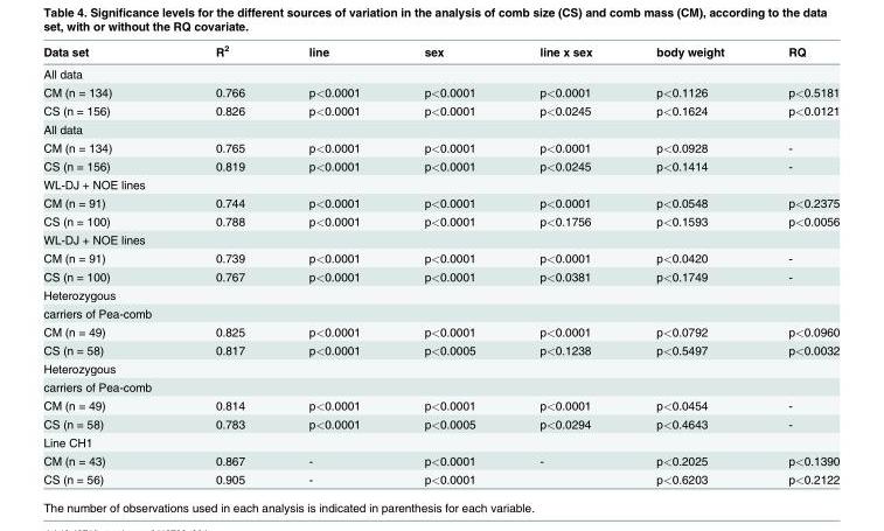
<table><thead><tr><td>Data set</td><td>R<sup>2</sup></td><td>line</td><td>sex</td><td>line x sex</td><td>body weight</td><td>RQ</td></tr></thead><tbody><tr><td colspan="7">All data</td></tr><tr><td>CM (n = 134)</td><td>0.766</td><td>p&lt;0.0001</td><td>p&lt;0.0001</td><td>p&lt;0.0001</td><td>p&lt;0.1126</td><td>p&lt;0.5181</td></tr><tr><td>CS (n = 156)</td><td>0.826</td><td>p&lt;0.0001</td><td>p&lt;0.0001</td><td>p&lt;0.0245</td><td>p&lt;0.1624</td><td>p&lt;0.0121</td></tr><tr><td colspan="7">All data</td></tr><tr><td>CM (n = 134)</td><td>0.765</td><td>p&lt;0.0001</td><td>p&lt;0.0001</td><td>p&lt;0.0001</td><td>p&lt;0.0928</td><td>-</td></tr><tr><td>CS (n = 156)</td><td>0.819</td><td>p&lt;0.0001</td><td>p&lt;0.0001</td><td>p&lt;0.0245</td><td>p&lt;0.1414</td><td>-</td></tr><tr><td colspan="7">WL-DJ + NOE lines</td></tr><tr><td>CM (n = 91)</td><td>0.744</td><td>p&lt;0.0001</td><td>p&lt;0.0001</td><td>p&lt;0.0001</td><td>p&lt;0.0548</td><td>p&lt;0.2375</td></tr><tr><td>CS (n = 100)</td><td>0.788</td><td>p&lt;0.0001</td><td>p&lt;0.0001</td><td>p&lt;0.1756</td><td>p&lt;0.1593</td><td>p&lt;0.0056</td></tr><tr><td colspan="7">WL-DJ + NOE lines</td></tr><tr><td>CM (n = 91)</td><td>0.739</td><td>p&lt;0.0001</td><td>p&lt;0.0001</td><td>p&lt;0.0001</td><td>p&lt;0.0420</td><td>-</td></tr><tr><td>CS (n = 100)</td><td>0.767</td><td>p&lt;0.0001</td><td>p&lt;0.0001</td><td>p&lt;0.0381</td><td>p&lt;0.1749</td><td>-</td></tr><tr><td colspan="7">Heterozygous</td></tr><tr><td colspan="7">carriers of Pea-comb</td></tr><tr><td>CM (n = 49)</td><td>0.825</td><td>p&lt;0.0001</td><td>p&lt;0.0001</td><td>p&lt;0.0001</td><td>p&lt;0.0792</td><td>p&lt;0.0960</td></tr><tr><td>CS (n = 58)</td><td>0.817</td><td>p&lt;0.0001</td><td>p&lt;0.0005</td><td>p&lt;0.1238</td><td>p&lt;0.5497</td><td>p&lt;0.0032</td></tr><tr><td colspan="7">Heterozygous</td></tr><tr><td colspan="7">carriers of Pea-comb</td></tr><tr><td>CM (n = 49)</td><td>0.814</td><td>p&lt;0.0001</td><td>p&lt;0.0001</td><td>p&lt;0.0001</td><td>p&lt;0.0454</td><td>-</td></tr><tr><td>CS (n = 58)</td><td>0.783</td><td>p&lt;0.0001</td><td>p&lt;0.0005</td><td>p&lt;0.0294</td><td>p&lt;0.4643</td><td>-</td></tr><tr><td colspan="7">Line CH1</td></tr><tr><td>CM (n = 43)</td><td>0.867</td><td>-</td><td>p&lt;0.0001</td><td>-</td><td>p&lt;0.2025</td><td>p&lt;0.1390</td></tr><tr><td>CS (n = 56)</td><td>0.905</td><td>-</td><td>p&lt;0.0001</td><td></td><td>p&lt;0.6203</td><td>p&lt;0.2122</td></tr></tbody></table>